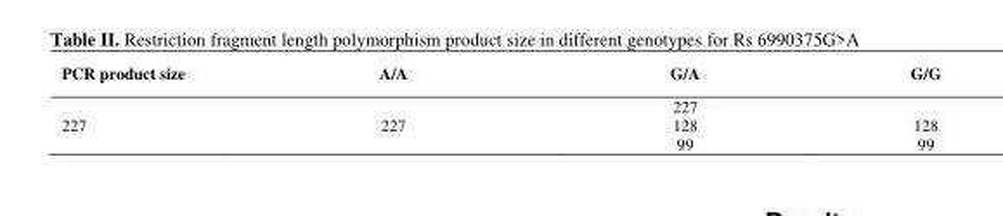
<table><thead><tr><td>PCR product size</td><td>A/A</td><td>G/A</td><td>G/G</td></tr></thead><tbody><tr><td>227</td><td>227</td><td>227 128 99</td><td>128 99</td></tr></tbody></table>